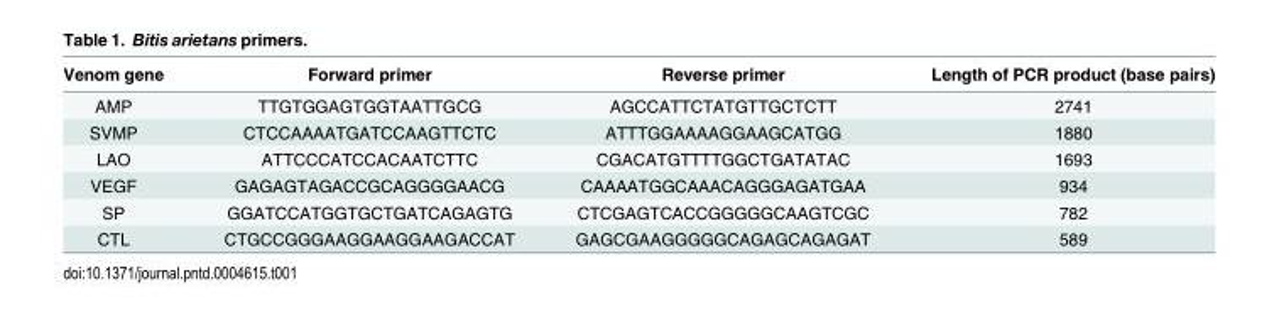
<table><thead><tr><td>Venom gene</td><td>Forward primer</td><td>Reverse primer</td><td>Length of PCR product (base pairs)</td></tr></thead><tbody><tr><td>AMP</td><td>TTGTGGAGTGGTAATTGCG</td><td>AGCCATTCTATGTTGCTCTT</td><td>2741</td></tr><tr><td>SVMP</td><td>CTCCAAAATGATCCAAGTTCTC</td><td>ATTTGGAAAAGGAAGCATGG</td><td>1880</td></tr><tr><td>LAO</td><td>ATTCCCATCCACAATCTTC</td><td>CGACATGTTTTGGCTGATATAC</td><td>1693</td></tr><tr><td>VEGF</td><td>GAGAGTAGACCGCAGGGGAACG</td><td>CAAAATGGCAAACAGGGAGATGAA</td><td>934</td></tr><tr><td>SP</td><td>GGATCCATGGTGCTGATCAGAGTG</td><td>CTCGAGTCACCGGGGGCAAGTCGC</td><td>782</td></tr><tr><td>CTL</td><td>CTGCCGGGAAGGAAGGAAGACCAT</td><td>GAGCGAAGGGGGCAGAGCAGAGAT</td><td>589</td></tr></tbody></table>